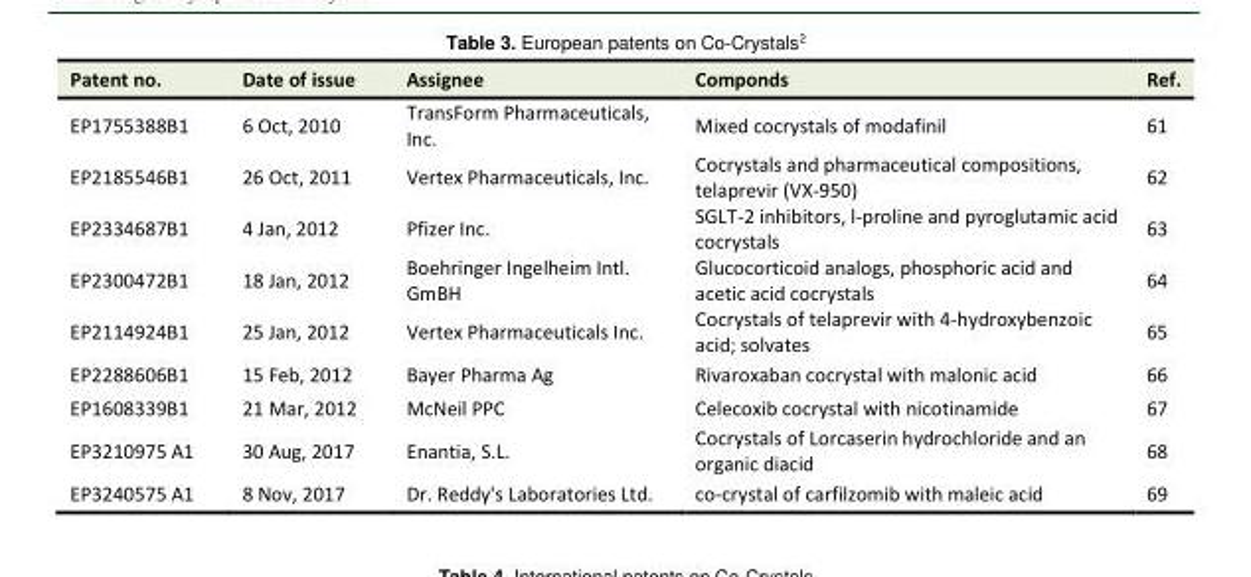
<table><tbody><tr><td>Patent no.</td><td>Date of issue</td><td>Assignee</td><td>Componds</td><td>Ref.</td></tr><tr><td>EP1755388B1</td><td>6 Oct, 2010</td><td>TransForm Pharmaceuticals, Inc.</td><td>Mixed cocrystals of modafinil</td><td>61</td></tr><tr><td>EP2185546B1</td><td>26 Oct, 2011</td><td>Vertex Pharmaceuticals, Inc.</td><td>Cocrystals and pharmaceutical compositions, telaprevir (VX-950)</td><td>62</td></tr><tr><td>EP2334687B1</td><td>4 Jan, 2012</td><td>Pfizer Inc.</td><td>SGLT-2 inhibitors, l-proline and pyroglutamic acid cocrystals</td><td>63</td></tr><tr><td>EP2300472B1</td><td>18 Jan, 2012</td><td>Boehringer Ingelheim Intl. GmBH</td><td>Glucocorticoid analogs, phosphoric acid and acetic acid cocrystals</td><td>64</td></tr><tr><td>EP2114924B1</td><td>25 Jan, 2012</td><td>Vertex Pharmaceuticals Inc.</td><td>Cocrystals of telaprevir with 4-hydroxybenzoic acid; solvates</td><td>65</td></tr><tr><td>EP2288606B1</td><td>15 Feb, 2012</td><td>Bayer Pharma Ag</td><td>Rivaroxaban cocrystal with malonic acid</td><td>66</td></tr><tr><td>EP1608339B1</td><td>21 Mar, 2012</td><td>McNeil PPC</td><td>Celecoxib cocrystal with nicotinamide</td><td>67</td></tr><tr><td>EP3210975 A1</td><td>30 Aug, 2017</td><td>Enantia, S.L.</td><td>Cocrystals of Lorcaserin hydrochloride and an organic diacid</td><td>68</td></tr><tr><td>EP3240575 A1</td><td>8 Nov, 2017</td><td>Dr. Reddy&#x27;s Laboratories Ltd.</td><td>co-crystal of carfilzomib with maleic acid</td><td>69</td></tr></tbody></table>